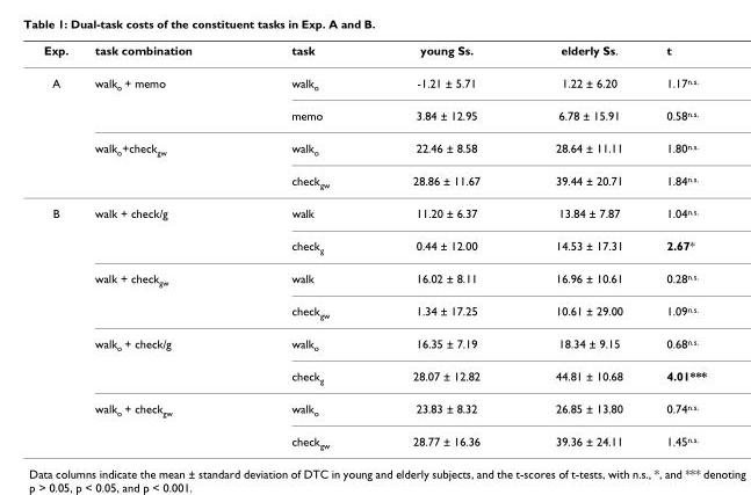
<table><thead><tr><td>Exp.</td><td>task combination</td><td>task</td><td>young Ss.</td><td>elderly Ss.</td><td>t</td></tr></thead><tbody><tr><td rowspan="4">A</td><td>walk<sub>o</sub> + memo</td><td>walk<sub>o</sub></td><td>-1.21 ± 5.71</td><td>1.22 ± 6.20</td><td>1.17<sup>n.s.</sup></td></tr><tr><td></td><td>memo</td><td>3.84 ± 12.95</td><td>6.78 ± 15.91</td><td>0.58<sup>n.s.</sup></td></tr><tr><td>walk<sub>o</sub>+check<sub>gw</sub></td><td>walk<sub>o</sub></td><td>22.46 ± 8.58</td><td>28.64 ± 11.11</td><td>1.80<sup>n.s.</sup></td></tr><tr><td></td><td>check<sub>gw</sub></td><td>28.86 ± 11.67</td><td>39.44 ± 20.71</td><td>1.84<sup>n.s.</sup></td></tr><tr><td rowspan="8">B</td><td>walk + check/g</td><td>walk</td><td>11.20 ± 6.37</td><td>13.84 ± 7.87</td><td>1.04<sup>n.s.</sup></td></tr><tr><td></td><td>check<sub>g</sub></td><td>0.44 ± 12.00</td><td>14.53 ± 17.31</td><td>2.67*</td></tr><tr><td>walk + check<sub>gw</sub></td><td>walk</td><td>16.02 ± 8.11</td><td>16.96 ± 10.61</td><td>0.28<sup>n.s.</sup></td></tr><tr><td></td><td>check<sub>gw</sub></td><td>1.34 ± 17.25</td><td>10.61 ± 29.00</td><td>1.09<sup>n.s.</sup></td></tr><tr><td>walk<sub>o</sub> + check/g</td><td>walk<sub>o</sub></td><td>16.35 ± 7.19</td><td>18.34 ± 9.15</td><td>0.68<sup>n.s.</sup></td></tr><tr><td></td><td>check<sub>g</sub></td><td>28.07 ± 12.82</td><td>44.81 ± 10.68</td><td>4.01***</td></tr><tr><td>walk<sub>o</sub> + check<sub>gw</sub></td><td>walk<sub>o</sub></td><td>23.83 ± 8.32</td><td>26.85 ± 13.80</td><td>0.74<sup>n.s.</sup></td></tr><tr><td></td><td>check<sub>gw</sub></td><td>28.77 ± 16.36</td><td>39.36 ± 24.11</td><td>1.45<sup>n.s.</sup></td></tr></tbody></table>